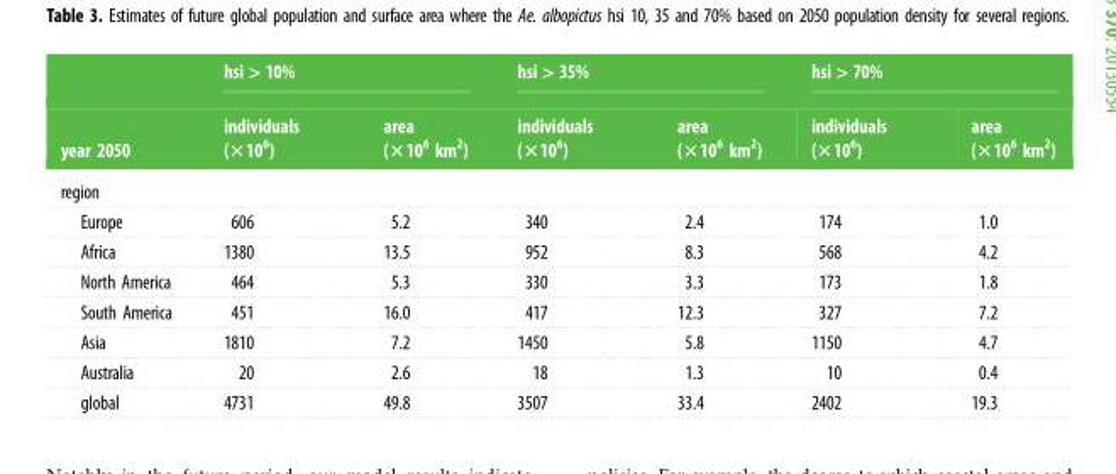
<table><thead><tr><td rowspan="2">year 2050</td><td colspan="2">hsi &gt; 10%</td><td colspan="2">hsi &gt; 35%</td><td colspan="2">hsi &gt; 70%</td></tr><tr><td>individuals (×10<sup>6</sup>)</td><td>area (×10<sup>6</sup> km<sup>2</sup>)</td><td>individuals (×10<sup>6</sup>)</td><td>area (×10<sup>6</sup> km<sup>2</sup>)</td><td>individuals (×10<sup>6</sup>)</td><td>area (×10<sup>6</sup> km<sup>2</sup>)</td></tr></thead><tbody><tr><td colspan="7">region</td></tr><tr><td>Europe</td><td>606</td><td>5.2</td><td>340</td><td>2.4</td><td>174</td><td>1.0</td></tr><tr><td>Africa</td><td>1380</td><td>13.5</td><td>952</td><td>8.3</td><td>568</td><td>4.2</td></tr><tr><td>North America</td><td>464</td><td>5.3</td><td>330</td><td>3.3</td><td>173</td><td>1.8</td></tr><tr><td>South America</td><td>451</td><td>16.0</td><td>417</td><td>12.3</td><td>327</td><td>7.2</td></tr><tr><td>Asia</td><td>1810</td><td>7.2</td><td>1450</td><td>5.8</td><td>1150</td><td>4.7</td></tr><tr><td>Australia</td><td>20</td><td>2.6</td><td>18</td><td>1.3</td><td>10</td><td>0.4</td></tr><tr><td>global</td><td>4731</td><td>49.8</td><td>3507</td><td>33.4</td><td>2402</td><td>19.3</td></tr></tbody></table>